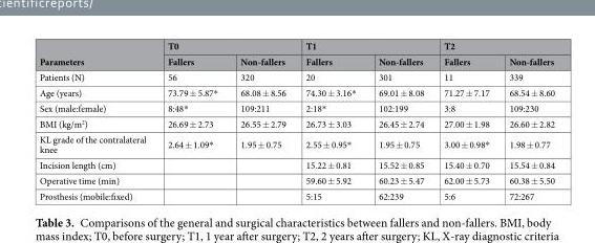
<table><thead><tr><td rowspan="2">Parameters</td><td colspan="2">T0</td><td colspan="2">T1</td><td colspan="2">T2</td></tr><tr><td>Fallers</td><td>Non-fallers</td><td>Fallers</td><td>Non-fallers</td><td>Fallers</td><td>Non-fallers</td></tr></thead><tbody><tr><td>Patients (N)</td><td>56</td><td>320</td><td>20</td><td>301</td><td>11</td><td>339</td></tr><tr><td>Age (years)</td><td>73.79 ± 5.87*</td><td>68.08 ± 8.56</td><td>74.30 ± 3.16*</td><td>69.01 ± 8.08</td><td>71.27 ± 7.17</td><td>68.54 ± 8.60</td></tr><tr><td>Sex (male:female)</td><td>8:48*</td><td>109:211</td><td>2:18*</td><td>102:199</td><td>3:8</td><td>109:230</td></tr><tr><td>BMI (kg/m<sup>2</sup>)</td><td>26.69 ± 2.73</td><td>26.55 ± 2.79</td><td>26.73 ± 3.03</td><td>26.45 ± 2.74</td><td>27.00 ± 1.98</td><td>26.60 ± 2.82</td></tr><tr><td>KL grade of the contralateral knee</td><td>2.64 ± 1.09*</td><td>1.95 ± 0.75</td><td>2.55 ± 0.95*</td><td>1.95 ± 0.75</td><td>3.00 ± 0.98*</td><td>1.98 ± 0.77</td></tr><tr><td>Incision length (cm)</td><td></td><td></td><td>15.22 ± 0.81</td><td>15.52 ± 0.85</td><td>15.40 ± 0.70</td><td>15.54 ± 0.84</td></tr><tr><td>Operative time (min)</td><td></td><td></td><td>59.60 ± 5.92</td><td>60.23 ± 5.47</td><td>62.00 ± 5.73</td><td>60.38 ± 5.50</td></tr><tr><td>Prosthesis (mobile:fixed)</td><td></td><td></td><td>5:15</td><td>62:239</td><td>5:6</td><td>72:267</td></tr></tbody></table>